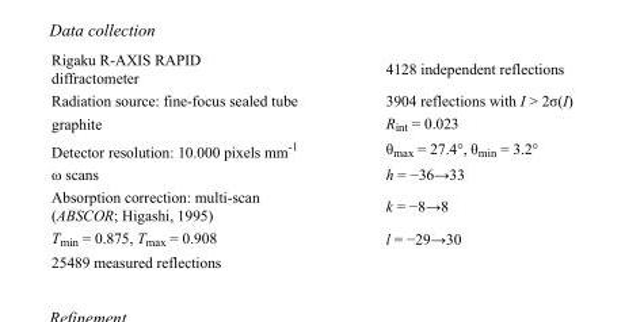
<table><tbody><tr><td>Rigaku R-AXIS RAPID diffractometer</td><td>4128 independent reflections</td></tr><tr><td>Radiation source: fine-focus sealed tube</td><td>3904 reflections with I &gt; 2σ(I)</td></tr><tr><td>graphite</td><td>R<sub>int</sub> = 0.023</td></tr><tr><td>Detector resolution: 10.000 pixels mm<sup>-1</sup></td><td>θ<sub>max</sub> = 27.4°, θ<sub>min</sub> = 3.2°</td></tr><tr><td>ω scans</td><td>h = −36→33</td></tr><tr><td>Absorption correction: multi-scan (ABSCOR; Higashi, 1995)</td><td>k = −8→8</td></tr><tr><td>T<sub>min</sub> = 0.875, T<sub>max</sub> = 0.908</td><td>l = −29→30</td></tr><tr><td>25489 measured reflections</td><td></td></tr></tbody></table>